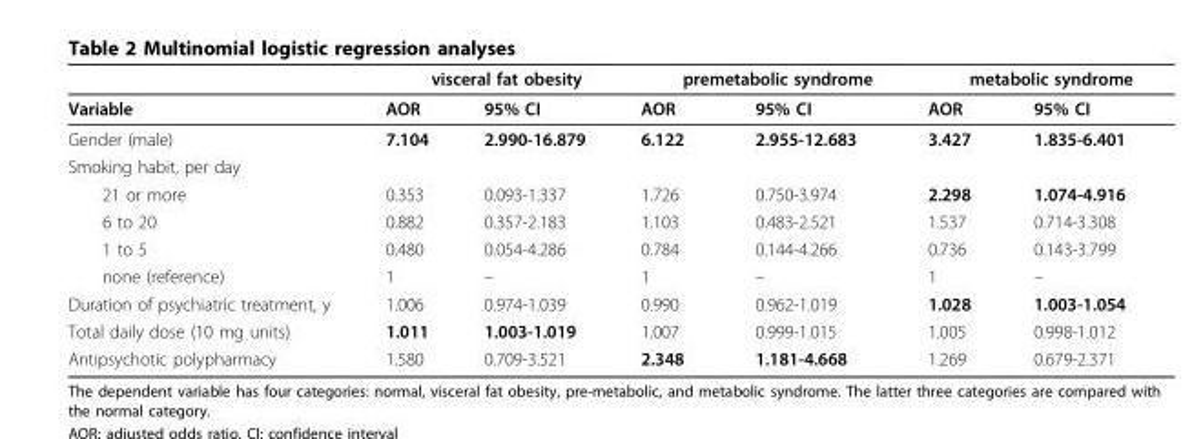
<table><thead><tr><td rowspan="2">Variable</td><td colspan="2">visceral fat obesity</td><td colspan="2">premetabolic syndrome</td><td colspan="2">metabolic syndrome</td></tr><tr><td>AOR</td><td>95% CI</td><td>AOR</td><td>95% CI</td><td>AOR</td><td>95% CI</td></tr></thead><tbody><tr><td>Gender (male)</td><td>7.104</td><td>2.990-16.879</td><td>6.122</td><td>2.955-12.683</td><td>3.427</td><td>1.835-6.401</td></tr><tr><td colspan="7">Smoking habit, per day</td></tr><tr><td>21 or more</td><td>0.353</td><td>0.093-1.337</td><td>1.726</td><td>0.750-3.974</td><td>2.298</td><td>1.074-4.916</td></tr><tr><td>6 to 20</td><td>0.882</td><td>0.357-2.183</td><td>1.103</td><td>0.483-2.521</td><td>1.537</td><td>0.714-3.308</td></tr><tr><td>1 to 5</td><td>0.480</td><td>0.054-4.286</td><td>0.784</td><td>0.144-4.266</td><td>0.736</td><td>0.143-3.799</td></tr><tr><td>none (reference)</td><td>1</td><td>–</td><td>1</td><td>–</td><td>1</td><td>–</td></tr><tr><td>Duration of psychiatric treatment, y</td><td>1.006</td><td>0.974-1.039</td><td>0.990</td><td>0.962-1.019</td><td>1.028</td><td>1.003-1.054</td></tr><tr><td>Total daily dose (10 mg units)</td><td>1.011</td><td>1.003-1.019</td><td>1.007</td><td>0.999-1.015</td><td>1.005</td><td>0.998-1.012</td></tr><tr><td>Antipsychotic polypharmacy</td><td>1.580</td><td>0.709-3.521</td><td>2.348</td><td>1.181-4.668</td><td>1.269</td><td>0.679-2.371</td></tr></tbody></table>